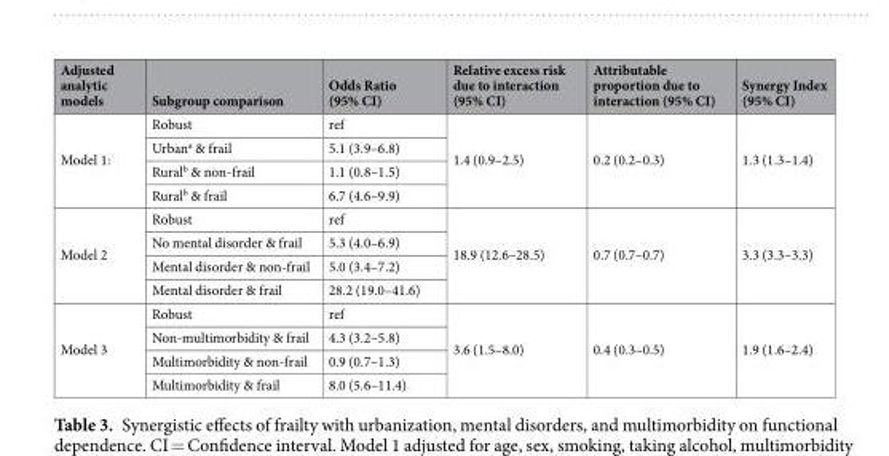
<table><thead><tr><td>Adjusted analytic models</td><td>Subgroup comparison</td><td>Odds Ratio (95% CI)</td><td>Relative excess risk due to interaction (95% CI)</td><td>Attributable proportion due to interaction (95% CI)</td><td>Synergy Index (95% CI)</td></tr></thead><tbody><tr><td rowspan="4">Model 1:</td><td>Robust</td><td>ref</td><td rowspan="4">1.4 (0.9–2.5)</td><td rowspan="4">0.2 (0.2–0.3)</td><td rowspan="4">1.3 (1.3–1.4)</td></tr><tr><td>Urban<sup>a</sup> &amp; frail</td><td>5.1 (3.9–6.8)</td></tr><tr><td>Rural<sup>b</sup> &amp; non-frail</td><td>1.1 (0.8–1.5)</td></tr><tr><td>Rural<sup>b</sup> &amp; frail</td><td>6.7 (4.6–9.9)</td></tr><tr><td rowspan="4">Model 2</td><td>Robust</td><td>ref</td><td rowspan="4">18.9 (12.6–28.5)</td><td rowspan="4">0.7 (0.7–0.7)</td><td rowspan="4">3.3 (3.3–3.3)</td></tr><tr><td>No mental disorder &amp; frail</td><td>5.3 (4.0–6.9)</td></tr><tr><td>Mental disorder &amp; non-frail</td><td>5.0 (3.4–7.2)</td></tr><tr><td>Mental disorder &amp; frail</td><td>28.2 (19.0–41.6)</td></tr><tr><td rowspan="4">Model 3</td><td>Robust</td><td>ref</td><td rowspan="4">3.6 (1.5–8.0)</td><td rowspan="4">0.4 (0.3–0.5)</td><td rowspan="4">1.9 (1.6–2.4)</td></tr><tr><td>Non-multimorbidity &amp; frail</td><td>4.3 (3.2–5.8)</td></tr><tr><td>Multimorbidity &amp; non-frail</td><td>0.9 (0.7–1.3)</td></tr><tr><td>Multimorbidity &amp; frail</td><td>8.0 (5.6–11.4)</td></tr></tbody></table>